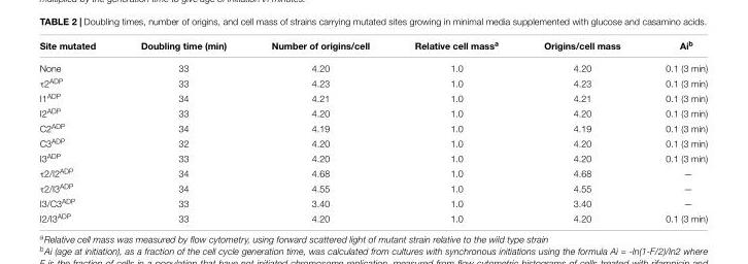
<table><thead><tr><td>Site mutated</td><td>Doubling time (min)</td><td>Number of origins/cell</td><td>Relative cell mass<sup>a</sup></td><td>Origins/cell mass</td><td>Ai<sup>b</sup></td></tr></thead><tbody><tr><td>None</td><td>33</td><td>4.20</td><td>1.0</td><td>4.20</td><td>0.1 (3 min)</td></tr><tr><td>τ2<sup>ADP</sup></td><td>33</td><td>4.23</td><td>1.0</td><td>4.23</td><td>0.1 (3 min)</td></tr><tr><td>I1<sup>ADP</sup></td><td>34</td><td>4.21</td><td>1.0</td><td>4.21</td><td>0.1 (3 min)</td></tr><tr><td>I2<sup>ADP</sup></td><td>33</td><td>4.20</td><td>1.0</td><td>4.20</td><td>0.1 (3 min)</td></tr><tr><td>C2<sup>ADP</sup></td><td>34</td><td>4.19</td><td>1.0</td><td>4.19</td><td>0.1 (3 min)</td></tr><tr><td>C3<sup>ADP</sup></td><td>32</td><td>4.20</td><td>1.0</td><td>4.20</td><td>0.1 (3 min)</td></tr><tr><td>I3<sup>ADP</sup></td><td>33</td><td>4.20</td><td>1.0</td><td>4.20</td><td>0.1 (3 min)</td></tr><tr><td>τ2/I2<sup>ADP</sup></td><td>34</td><td>4.68</td><td>1.0</td><td>4.68</td><td>—</td></tr><tr><td>τ2/I3<sup>ADP</sup></td><td>34</td><td>4.55</td><td>1.0</td><td>4.55</td><td>—</td></tr><tr><td>I3/C3<sup>ADP</sup></td><td>33</td><td>3.40</td><td>1.0</td><td>3.40</td><td>—</td></tr><tr><td>I2/I3<sup>ADP</sup></td><td>33</td><td>4.20</td><td>1.0</td><td>4.20</td><td>0.1 (3 min)</td></tr></tbody></table>